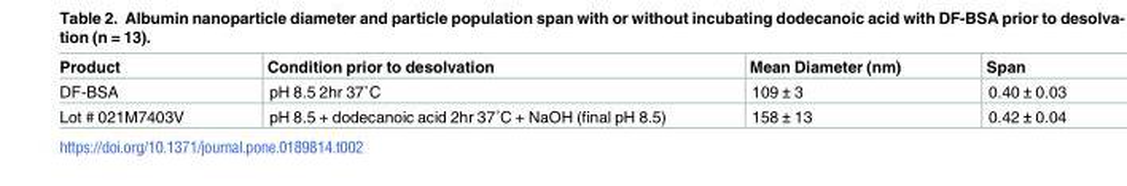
<table><thead><tr><td>Product</td><td>Condition prior to desolvation</td><td>Mean Diameter (nm)</td><td>Span</td></tr></thead><tbody><tr><td>DF-BSA</td><td>pH 8.5 2hr 37˚C</td><td>109 ± 3</td><td>0.40 ± 0.03</td></tr><tr><td>Lot # 021M7403V</td><td>pH 8.5 + dodecanoic acid 2hr 37˚C + NaOH (final pH 8.5)</td><td>158 ± 13</td><td>0.42 ± 0.04</td></tr></tbody></table>